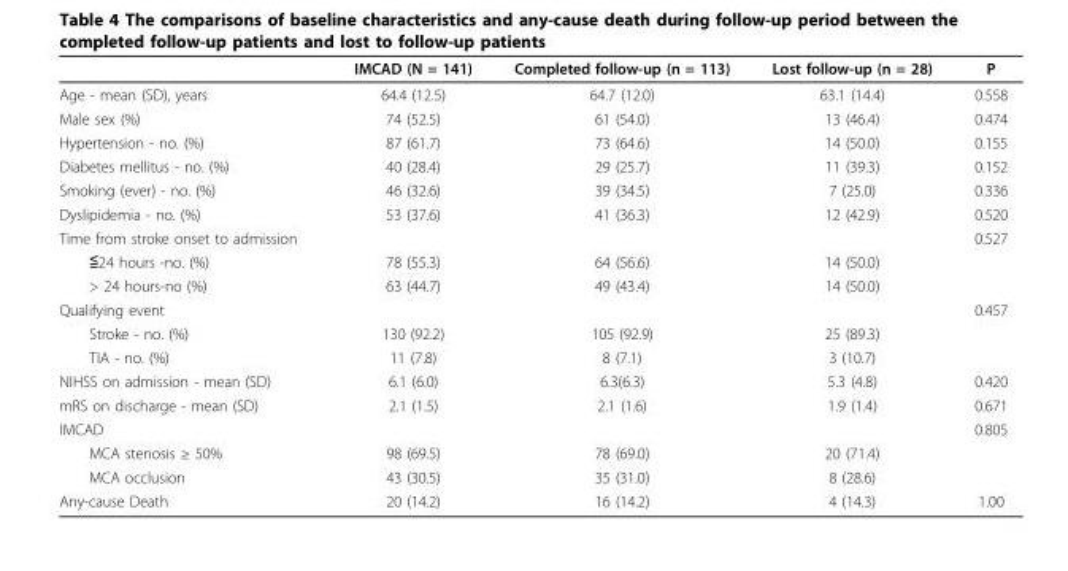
<table><thead><tr><td></td><td>IMCAD (N = 141)</td><td>Completed follow-up (n = 113)</td><td>Lost follow-up (n = 28)</td><td>P</td></tr></thead><tbody><tr><td>Age - mean (SD), years</td><td>64.4 (12.5)</td><td>64.7 (12.0)</td><td>63.1 (14.4)</td><td>0.558</td></tr><tr><td>Male sex (%)</td><td>74 (52.5)</td><td>61 (54.0)</td><td>13 (46.4)</td><td>0.474</td></tr><tr><td>Hypertension - no. (%)</td><td>87 (61.7)</td><td>73 (64.6)</td><td>14 (50.0)</td><td>0.155</td></tr><tr><td>Diabetes mellitus - no. (%)</td><td>40 (28.4)</td><td>29 (25.7)</td><td>11 (39.3)</td><td>0.152</td></tr><tr><td>Smoking (ever) - no. (%)</td><td>46 (32.6)</td><td>39 (34.5)</td><td>7 (25.0)</td><td>0.336</td></tr><tr><td>Dyslipidemia - no. (%)</td><td>53 (37.6)</td><td>41 (36.3)</td><td>12 (42.9)</td><td>0.520</td></tr><tr><td>Time from stroke onset to admission</td><td></td><td></td><td></td><td>0.527</td></tr><tr><td>≦24 hours -no. (%)</td><td>78 (55.3)</td><td>64 (56.6)</td><td>14 (50.0)</td><td></td></tr><tr><td>&gt; 24 hours-no (%)</td><td>63 (44.7)</td><td>49 (43.4)</td><td>14 (50.0)</td><td></td></tr><tr><td>Qualifying event</td><td></td><td></td><td></td><td>0.457</td></tr><tr><td>Stroke - no. (%)</td><td>130 (92.2)</td><td>105 (92.9)</td><td>25 (89.3)</td><td></td></tr><tr><td>TIA - no. (%)</td><td>11 (7.8)</td><td>8 (7.1)</td><td>3 (10.7)</td><td></td></tr><tr><td>NIHSS on admission - mean (SD)</td><td>6.1 (6.0)</td><td>6.3(6.3)</td><td>5.3 (4.8)</td><td>0.420</td></tr><tr><td>mRS on discharge - mean (SD)</td><td>2.1 (1.5)</td><td>2.1 (1.6)</td><td>1.9 (1.4)</td><td>0.671</td></tr><tr><td>IMCAD</td><td></td><td></td><td></td><td>0.805</td></tr><tr><td>MCA stenosis ≥ 50%</td><td>98 (69.5)</td><td>78 (69.0)</td><td>20 (71.4)</td><td></td></tr><tr><td>MCA occlusion</td><td>43 (30.5)</td><td>35 (31.0)</td><td>8 (28.6)</td><td></td></tr><tr><td>Any-cause Death</td><td>20 (14.2)</td><td>16 (14.2)</td><td>4 (14.3)</td><td>1.00</td></tr></tbody></table>